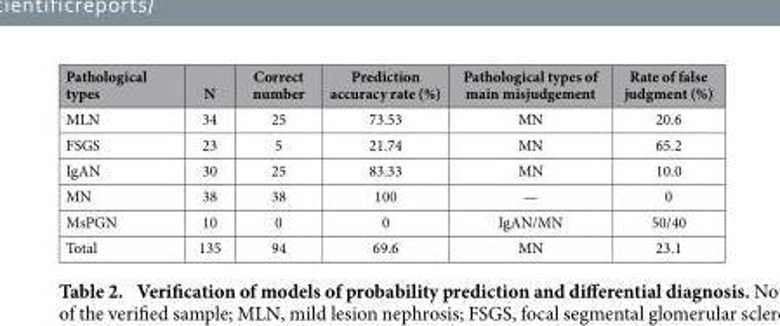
<table><thead><tr><td>Pathological types</td><td>N</td><td>Correct number</td><td>Prediction accuracy rate (%)</td><td>Pathological types of main misjudgement</td><td>Rate of false judgment (%)</td></tr></thead><tbody><tr><td>MLN</td><td>34</td><td>25</td><td>73.53</td><td>MN</td><td>20.6</td></tr><tr><td>FSGS</td><td>23</td><td>5</td><td>21.74</td><td>MN</td><td>65.2</td></tr><tr><td>IgAN</td><td>30</td><td>25</td><td>83.33</td><td>MN</td><td>10.0</td></tr><tr><td>MN</td><td>38</td><td>38</td><td>100</td><td>—</td><td>0</td></tr><tr><td>MsPGN</td><td>10</td><td>0</td><td>0</td><td>IgAN/MN</td><td>50/40</td></tr><tr><td>Total</td><td>135</td><td>94</td><td>69.6</td><td>MN</td><td>23.1</td></tr></tbody></table>